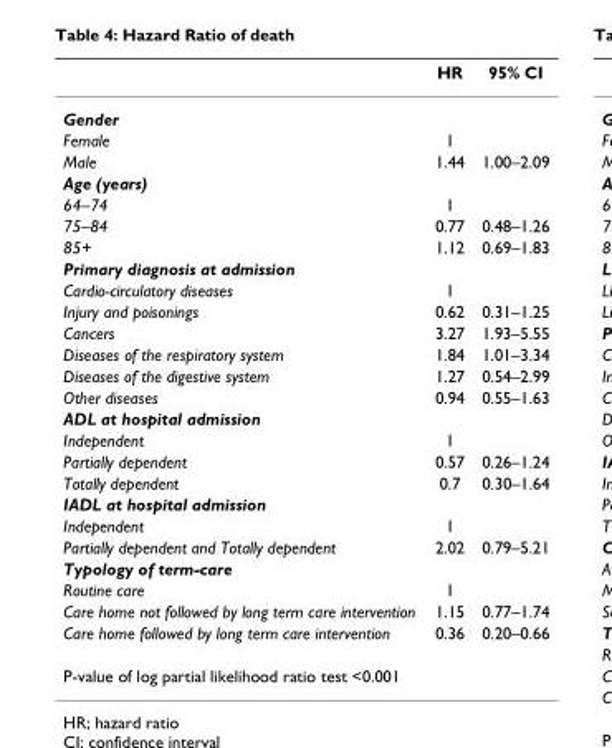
<table><thead><tr><td></td><td>HR</td><td>95% CI</td></tr></thead><tbody><tr><td colspan="3">Gender</td></tr><tr><td>Female</td><td>1</td><td></td></tr><tr><td>Male</td><td>1.44</td><td>1.00–2.09</td></tr><tr><td colspan="3">Age (years)</td></tr><tr><td>64–74</td><td>1</td><td></td></tr><tr><td>75–84</td><td>0.77</td><td>0.48–1.26</td></tr><tr><td>85+</td><td>1.12</td><td>0.69–1.83</td></tr><tr><td colspan="3">Primary diagnosis at admission</td></tr><tr><td>Cardio-circulatory diseases</td><td>1</td><td></td></tr><tr><td>Injury and poisonings</td><td>0.62</td><td>0.31–1.25</td></tr><tr><td>Cancers</td><td>3.27</td><td>1.93–5.55</td></tr><tr><td>Diseases of the respiratory system</td><td>1.84</td><td>1.01–3.34</td></tr><tr><td>Diseases of the digestive system</td><td>1.27</td><td>0.54–2.99</td></tr><tr><td>Other diseases</td><td>0.94</td><td>0.55–1.63</td></tr><tr><td colspan="3">ADL at hospital admission</td></tr><tr><td>Independent</td><td>1</td><td></td></tr><tr><td>Partially dependent</td><td>0.57</td><td>0.26–1.24</td></tr><tr><td>Totally dependent</td><td>0.7</td><td>0.30–1.64</td></tr><tr><td colspan="3">IADL at hospital admission</td></tr><tr><td>Independent</td><td>1</td><td></td></tr><tr><td>Partially dependent and Totally dependent</td><td>2.02</td><td>0.79–5.21</td></tr><tr><td colspan="3">Typology of term-care</td></tr><tr><td>Routine care</td><td>1</td><td></td></tr><tr><td>Care home not followed by long term care intervention</td><td>1.15</td><td>0.77–1.74</td></tr><tr><td>Care home followed by long term care intervention</td><td>0.36</td><td>0.20–0.66</td></tr><tr><td>P-value of log partial likelihood ratio test &lt;0.001</td><td></td><td></td></tr></tbody></table>